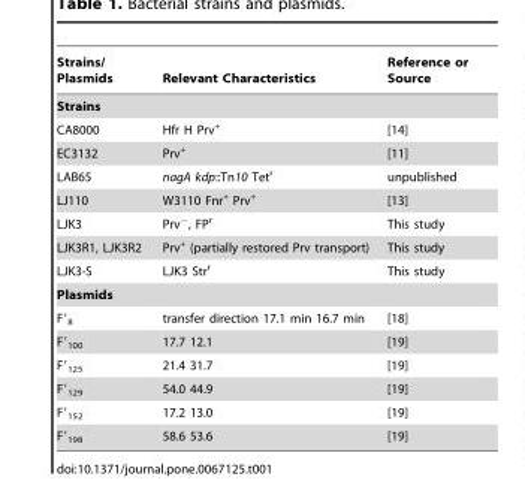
<table><thead><tr><td>Strains/ Plasmids</td><td>Relevant Characteristics</td><td>Reference or Source</td></tr></thead><tbody><tr><td colspan="3">Strains</td></tr><tr><td>CA8000</td><td>Hfr H Prv<sup>+</sup></td><td>[14]</td></tr><tr><td>EC3132</td><td>Prv<sup>+</sup></td><td>[11]</td></tr><tr><td>LAB65</td><td>nagA kdp::Tn10 Tet<sup>r</sup></td><td>unpublished</td></tr><tr><td>LJ110</td><td>W3110 Fnr<sup>+</sup> Prv<sup>+</sup></td><td>[13]</td></tr><tr><td>LJK3</td><td>Prv<sup>−</sup>, FP<sup>r</sup></td><td>This study</td></tr><tr><td>LJK3R1, LJK3R2</td><td>Prv<sup>+</sup> (partially restored Prv transport)</td><td>This study</td></tr><tr><td>LJK3-S</td><td>LJK3 Str<sup>r</sup></td><td>This study</td></tr><tr><td colspan="3">Plasmids</td></tr><tr><td>F′<sub>8</sub></td><td>transfer direction 17.1 min 16.7 min</td><td>[18]</td></tr><tr><td>F′<sub>100</sub></td><td>17.7 12.1</td><td>[19]</td></tr><tr><td>F′<sub>125</sub></td><td>21.4 31.7</td><td>[19]</td></tr><tr><td>F′<sub>129</sub></td><td>54.0 44.9</td><td>[19]</td></tr><tr><td>F′<sub>152</sub></td><td>17.2 13.0</td><td>[19]</td></tr><tr><td>F′<sub>198</sub></td><td>58.6 53.6</td><td>[19]</td></tr></tbody></table>